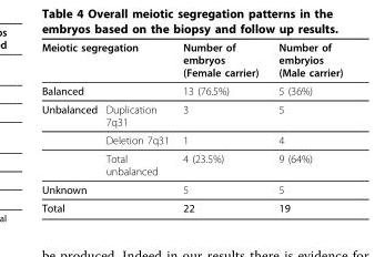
<table><thead><tr><td colspan="2">Meiotic segregation</td><td rowspan="2">Number of embryos (Female carrier) 13 (76.5%)</td><td rowspan="2">Number of embryios (Male carrier) 5 (36%)</td></tr><tr><td>Balanced</td><td></td></tr></thead><tbody><tr><td rowspan="3">Unbalanced</td><td>Duplication 7q31</td><td>3</td><td>5</td></tr><tr><td>Deletion 7q31</td><td>1</td><td>4</td></tr><tr><td>Total unbalanced</td><td>4 (23.5%)</td><td>9 (64%)</td></tr><tr><td colspan="2">Unknown</td><td>5</td><td>5</td></tr><tr><td colspan="2">Total</td><td>22</td><td>19</td></tr></tbody></table>